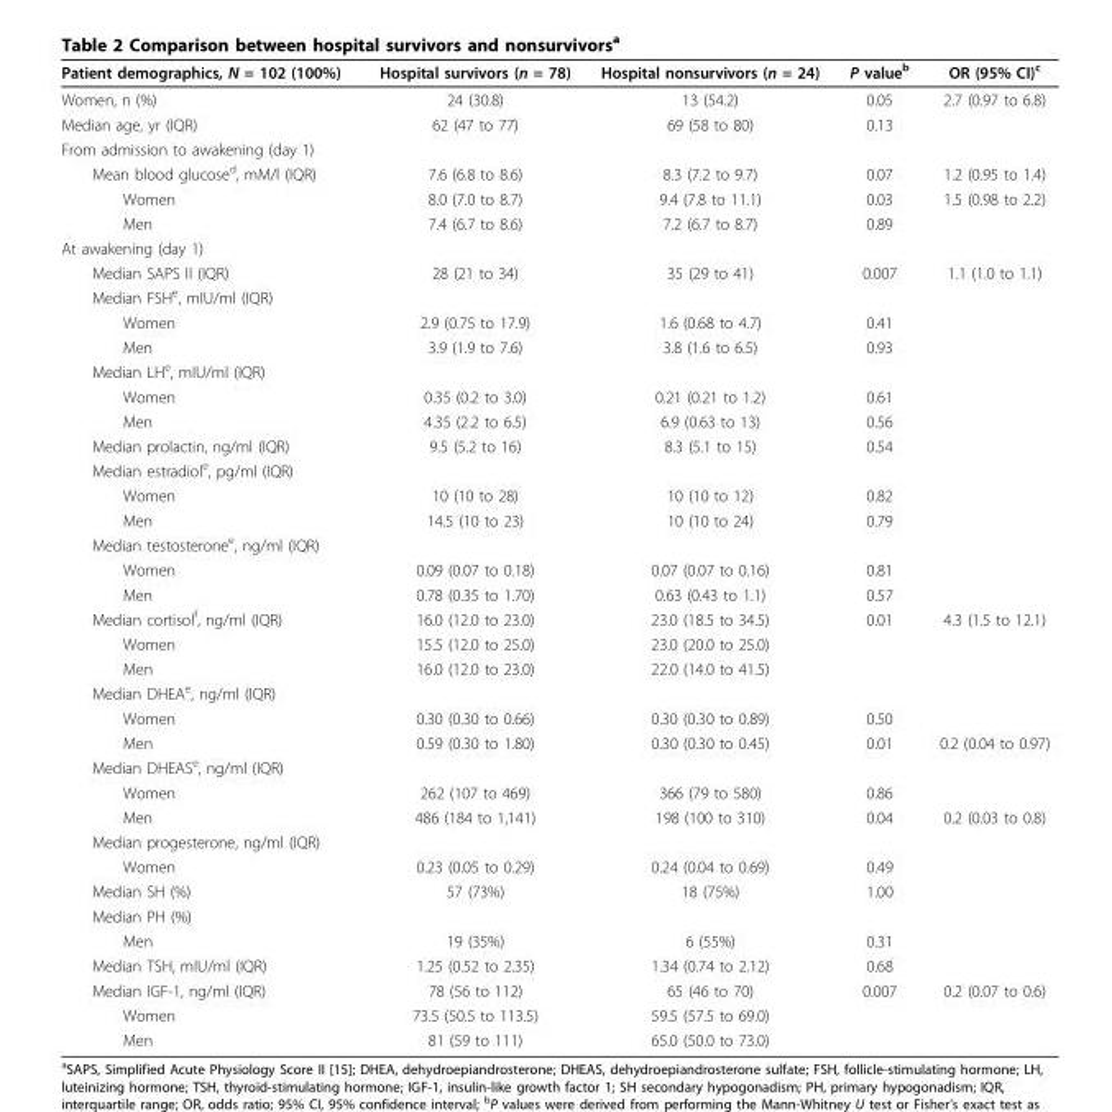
<table><thead><tr><td>Patient demographics, N = 102 (100%)</td><td>Hospital survivors (n = 78)</td><td>Hospital nonsurvivors (n = 24)</td><td>P value<sup>b</sup></td><td>OR (95% CI)<sup>c</sup></td></tr></thead><tbody><tr><td>Women, n (%)</td><td>24 (30.8)</td><td>13 (54.2)</td><td>0.05</td><td>2.7 (0.97 to 6.8)</td></tr><tr><td>Median age, yr (IQR)</td><td>62 (47 to 77)</td><td>69 (58 to 80)</td><td>0.13</td><td></td></tr><tr><td colspan="5">From admission to awakening (day 1)</td></tr><tr><td>Mean blood glucose<sup>d</sup>, mM/l (IQR)</td><td>7.6 (6.8 to 8.6)</td><td>8.3 (7.2 to 9.7)</td><td>0.07</td><td>1.2 (0.95 to 1.4)</td></tr><tr><td>Women</td><td>8.0 (7.0 to 8.7)</td><td>9.4 (7.8 to 11.1)</td><td>0.03</td><td>1.5 (0.98 to 2.2)</td></tr><tr><td>Men</td><td>7.4 (6.7 to 8.6)</td><td>7.2 (6.7 to 8.7)</td><td>0.89</td><td></td></tr><tr><td colspan="5">At awakening (day 1)</td></tr><tr><td>Median SAPS II (IQR)</td><td>28 (21 to 34)</td><td>35 (29 to 41)</td><td>0.007</td><td>1.1 (1.0 to 1.1)</td></tr><tr><td colspan="5">Median FSH<sup>e</sup>, mIU/ml (IQR)</td></tr><tr><td>Women</td><td>2.9 (0.75 to 17.9)</td><td>1.6 (0.68 to 4.7)</td><td>0.41</td><td></td></tr><tr><td>Men</td><td>3.9 (1.9 to 7.6)</td><td>3.8 (1.6 to 6.5)</td><td>0.93</td><td></td></tr><tr><td colspan="5">Median LH<sup>e</sup>, mIU/ml (IQR)</td></tr><tr><td>Women</td><td>0.35 (0.2 to 3.0)</td><td>0.21 (0.21 to 1.2)</td><td>0.61</td><td></td></tr><tr><td>Men</td><td>4.35 (2.2 to 6.5)</td><td>6.9 (0.63 to 13)</td><td>0.56</td><td></td></tr><tr><td>Median prolactin, ng/ml (IQR)</td><td>9.5 (5.2 to 16)</td><td>8.3 (5.1 to 15)</td><td>0.54</td><td></td></tr><tr><td colspan="5">Median estradiol<sup>e</sup>, pg/ml (IQR)</td></tr><tr><td>Women</td><td>10 (10 to 28)</td><td>10 (10 to 12)</td><td>0.82</td><td></td></tr><tr><td>Men</td><td>14.5 (10 to 23)</td><td>10 (10 to 24)</td><td>0.79</td><td></td></tr><tr><td colspan="5">Median testosterone<sup>e</sup>, ng/ml (IQR)</td></tr><tr><td>Women</td><td>0.09 (0.07 to 0.18)</td><td>0.07 (0.07 to 0.16)</td><td>0.81</td><td></td></tr><tr><td>Men</td><td>0.78 (0.35 to 1.70)</td><td>0.63 (0.43 to 1.1)</td><td>0.57</td><td></td></tr><tr><td>Median cortisol<sup>f</sup>, ng/ml (IQR)</td><td>16.0 (12.0 to 23.0)</td><td>23.0 (18.5 to 34.5)</td><td>0.01</td><td>4.3 (1.5 to 12.1)</td></tr><tr><td>Women</td><td>15.5 (12.0 to 25.0)</td><td>23.0 (20.0 to 25.0)</td><td></td><td></td></tr><tr><td>Men</td><td>16.0 (12.0 to 23.0)</td><td>22.0 (14.0 to 41.5)</td><td></td><td></td></tr><tr><td colspan="5">Median DHEA<sup>e</sup>, ng/ml (IQR)</td></tr><tr><td>Women</td><td>0.30 (0.30 to 0.66)</td><td>0.30 (0.30 to 0.89)</td><td>0.50</td><td></td></tr><tr><td>Men</td><td>0.59 (0.30 to 1.80)</td><td>0.30 (0.30 to 0.45)</td><td>0.01</td><td>0.2 (0.04 to 0.97)</td></tr><tr><td colspan="5">Median DHEAS<sup>e</sup>, ng/ml (IQR)</td></tr><tr><td>Women</td><td>262 (107 to 469)</td><td>366 (79 to 580)</td><td>0.86</td><td></td></tr><tr><td>Men</td><td>486 (184 to 1,141)</td><td>198 (100 to 310)</td><td>0.04</td><td>0.2 (0.03 to 0.8)</td></tr><tr><td colspan="5">Median progesterone, ng/ml (IQR)</td></tr><tr><td>Women</td><td>0.23 (0.05 to 0.29)</td><td>0.24 (0.04 to 0.69)</td><td>0.49</td><td></td></tr><tr><td>Median SH (%)</td><td>57 (73%)</td><td>18 (75%)</td><td>1.00</td><td></td></tr><tr><td colspan="5">Median PH (%)</td></tr><tr><td>Men</td><td>19 (35%)</td><td>6 (55%)</td><td>0.31</td><td></td></tr><tr><td>Median TSH, mIU/ml (IQR)</td><td>1.25 (0.52 to 2.35)</td><td>1.34 (0.74 to 2.12)</td><td>0.68</td><td></td></tr><tr><td>Median IGF-1, ng/ml (IQR)</td><td>78 (56 to 112)</td><td>65 (46 to 70)</td><td>0.007</td><td>0.2 (0.07 to 0.6)</td></tr><tr><td>Women</td><td>73.5 (50.5 to 113.5)</td><td>59.5 (57.5 to 69.0)</td><td></td><td></td></tr><tr><td>Men</td><td>81 (59 to 111)</td><td>65.0 (50.0 to 73.0)</td><td></td><td></td></tr></tbody></table>